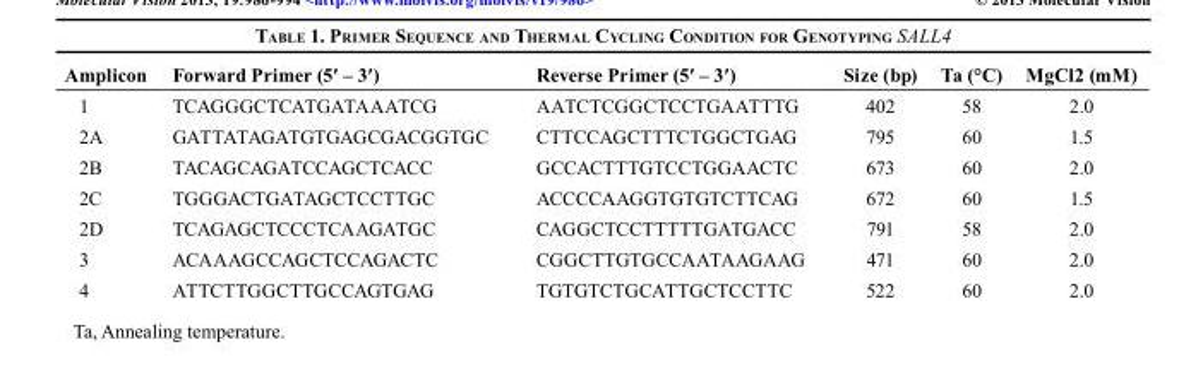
<table><thead><tr><td>Amplicon</td><td>Forward Primer (5′ – 3′)</td><td>Reverse Primer (5′ – 3′)</td><td>Size (bp)</td><td>Ta (°C)</td><td>MgCl<sub>2</sub> (mM)</td></tr></thead><tbody><tr><td>1</td><td>TCAGGGCTCATGATAAATCG</td><td>AATCTCGGCTCCTGAATTTG</td><td>402</td><td>58</td><td>2.0</td></tr><tr><td>2A</td><td>GATTATAGATGTGAGCGACGGTGC</td><td>CTTCCAGCTTTCTGGCTGAG</td><td>795</td><td>60</td><td>1.5</td></tr><tr><td>2B</td><td>TACAGCAGATCCAGCTCACC</td><td>GCCACTTTGTCCTGGAACTC</td><td>673</td><td>60</td><td>2.0</td></tr><tr><td>2C</td><td>TGGGACTGATAGCTCCTTGC</td><td>ACCCCAAGGTGTGTCTTCAG</td><td>672</td><td>60</td><td>1.5</td></tr><tr><td>2D</td><td>TCAGAGCTCCCTCAAGATGC</td><td>CAGGCTCCTTTTTGATGACC</td><td>791</td><td>58</td><td>2.0</td></tr><tr><td>3</td><td>ACAAAGCCAGCTCCAGACTC</td><td>CGGCTTGTGCCAATAAGAAG</td><td>471</td><td>60</td><td>2.0</td></tr><tr><td>4</td><td>ATTCTTGGCTTGCCAGTGAG</td><td>TGTGTCTGCATTGCTCCTTC</td><td>522</td><td>60</td><td>2.0</td></tr></tbody></table>